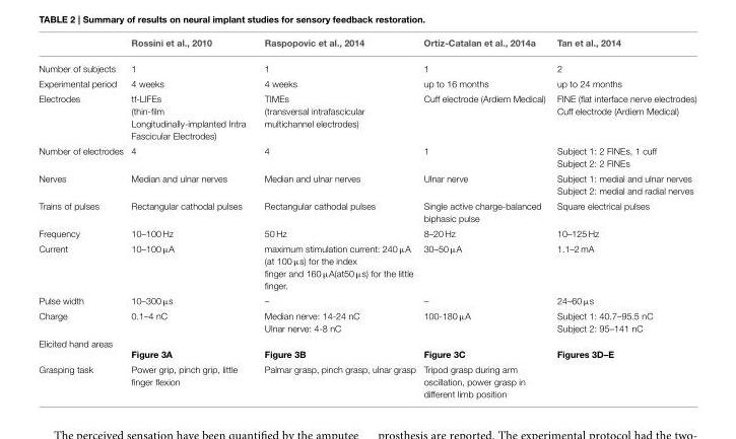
<table><thead><tr><td></td><td>Rossini et al., 2010</td><td>Raspopovic et al., 2014</td><td>Ortiz-Catalan et al., 2014a</td><td>Tan et al., 2014</td></tr></thead><tbody><tr><td>Number of subjects</td><td>1</td><td>1</td><td>1</td><td>2</td></tr><tr><td>Experimental period</td><td>4 weeks</td><td>4 weeks</td><td>up to 16 months</td><td>up to 24 months</td></tr><tr><td>Electrodes</td><td>tf-LIFEs (thin-film Longitudinally-implanted Intra Fascicular Electrodes)</td><td>TIMEs (transversal intrafascicular multichannel electrodes)</td><td>Cuff electrode (Ardiem Medical)</td><td>FINE (flat interface nerve electrodes) Cuff electrode (Ardiem Medical)</td></tr><tr><td>Number of electrodes</td><td>4</td><td>4</td><td>1</td><td>Subject 1: 2 FINEs, 1 cuff Subject 2: 2 FINEs</td></tr><tr><td>Nerves</td><td>Median and ulnar nerves</td><td>Median and ulnar nerves</td><td>Ulnar nerve</td><td>Subject 1: medial and ulnar nerves Subject 2: medial and radial nerves</td></tr><tr><td>Trains of pulses</td><td>Rectangular cathodal pulses</td><td>Rectangular cathodal pulses</td><td>Single active charge-balanced biphasic pulse</td><td>Square electrical pulses</td></tr><tr><td>Frequency</td><td>10–100 Hz</td><td>50 Hz</td><td>8–20 Hz</td><td>10–125 Hz</td></tr><tr><td>Current</td><td>10–100 µA</td><td>maximum stimulation current: 240 µA (at 100 µs) for the index finger and 160 µA(at50 µs) for the little finger.</td><td>30–50 µA</td><td>1.1–2 mA</td></tr><tr><td>Pulse width</td><td>10–300 µs</td><td>–</td><td>–</td><td>24–60 µs</td></tr><tr><td>Charge</td><td>0.1–4 nC</td><td>Median nerve: 14-24 nC Ulnar nerve: 4-8 nC</td><td>100-180 µA</td><td>Subject 1: 40.7–95.5 nC Subject 2: 95–141 nC</td></tr><tr><td>Elicited hand areas</td><td>Figure 3A</td><td>Figure 3B</td><td>Figure 3C</td><td>Figures 3D–E</td></tr><tr><td>Grasping task</td><td>Power grip, pinch grip, little finger flexion</td><td>Palmar grasp, pinch grasp, ulnar grasp</td><td>Tripod grasp during arm oscillation, power grasp in different limb position</td><td></td></tr></tbody></table>